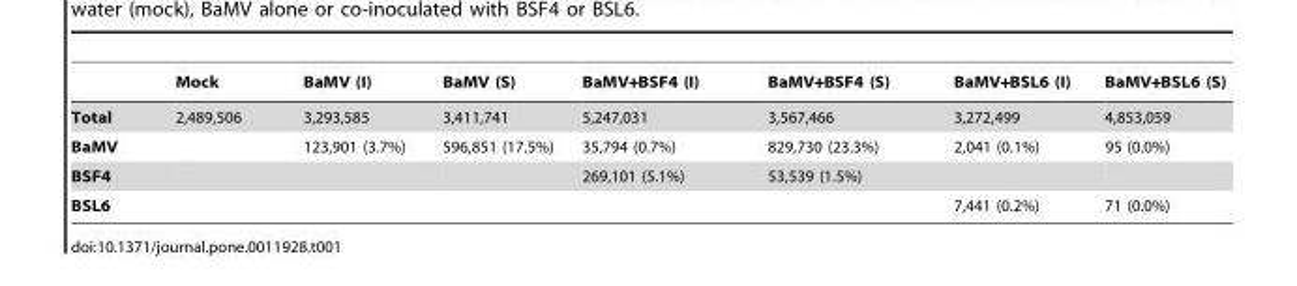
<table><thead><tr><td></td><td>Mock</td><td>BaMV (I)</td><td>BaMV (S)</td><td>BaMV+BSF4 (I)</td><td>BaMV+BSF4 (S)</td><td>BaMV+BSL6 (I)</td><td>BaMV+BSL6 (S)</td></tr></thead><tbody><tr><td>Total</td><td>2,489,506</td><td>3,293,585</td><td>3,411,741</td><td>5,247,031</td><td>3,567,466</td><td>3,272,499</td><td>4,853,059</td></tr><tr><td>BaMV</td><td></td><td>123,901 (3.7%)</td><td>596,851 (17.5%)</td><td>35,794 (0.7%)</td><td>829,730 (23.3%)</td><td>2,041 (0.1%)</td><td>95 (0.0%)</td></tr><tr><td>BSF4</td><td></td><td></td><td></td><td>269,101 (5.1%)</td><td>53,539 (1.5%)</td><td></td><td></td></tr><tr><td>BSL6</td><td></td><td></td><td></td><td></td><td></td><td>7,441 (0.2%)</td><td>71 (0.0%)</td></tr></tbody></table>